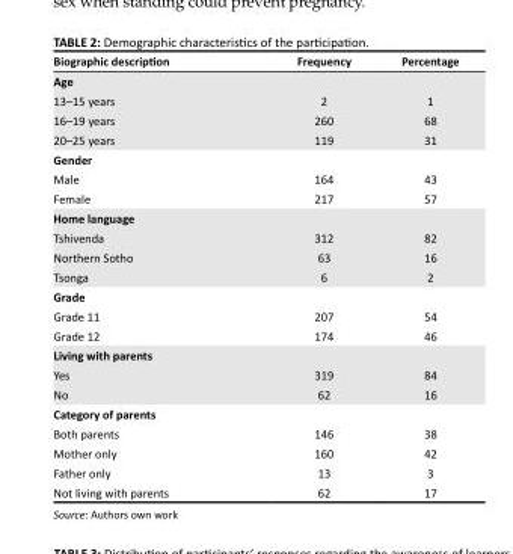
<table><thead><tr><td>Biographic description</td><td>Frequency</td><td>Percentage</td></tr></thead><tbody><tr><td colspan="3">Age</td></tr><tr><td>13–15 years</td><td>2</td><td>1</td></tr><tr><td>16–19 years</td><td>260</td><td>68</td></tr><tr><td>20–25 years</td><td>119</td><td>31</td></tr><tr><td colspan="3">Gender</td></tr><tr><td>Male</td><td>164</td><td>43</td></tr><tr><td>Female</td><td>217</td><td>57</td></tr><tr><td colspan="3">Home language</td></tr><tr><td>Tshivenda</td><td>312</td><td>82</td></tr><tr><td>Northern Sotho</td><td>63</td><td>16</td></tr><tr><td>Tsonga</td><td>6</td><td>2</td></tr><tr><td colspan="3">Grade</td></tr><tr><td>Grade 11</td><td>207</td><td>54</td></tr><tr><td>Grade 12</td><td>174</td><td>46</td></tr><tr><td colspan="3">Living with parents</td></tr><tr><td>Yes</td><td>319</td><td>84</td></tr><tr><td>No</td><td>62</td><td>16</td></tr><tr><td colspan="3">Category of parents</td></tr><tr><td>Both parents</td><td>146</td><td>38</td></tr><tr><td>Mother only</td><td>160</td><td>42</td></tr><tr><td>Father only</td><td>13</td><td>3</td></tr><tr><td>Not living with parents</td><td>62</td><td>17</td></tr></tbody></table>